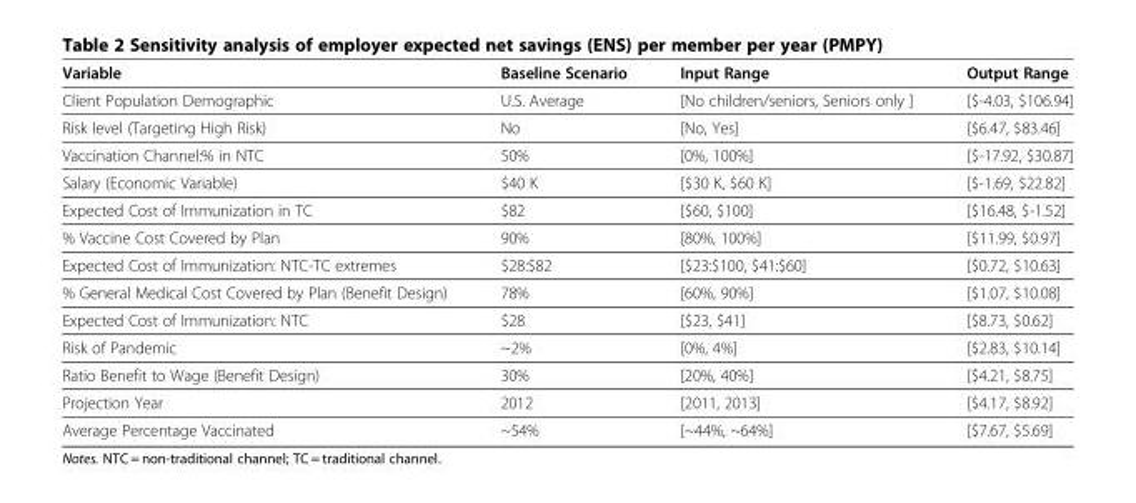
<table><thead><tr><td rowspan="3">Variable Client Population Demographic Risk level (Targeting High Risk)</td><td rowspan="3">Baseline Scenario U.S. Average No</td><td rowspan="3">Input Range [No children/seniors, Seniors only ] [No, Yes]</td><td rowspan="3">Output Range [$-4.03, $106.94] [$6.47, $83.46]</td></tr><tr></tr><tr></tr></thead><tbody><tr><td>Vaccination Channel:% in NTC</td><td>50%</td><td>[0%, 100%]</td><td>[$-17.92, $30.87]</td></tr><tr><td>Salary (Economic Variable)</td><td>$40 K</td><td>[$30 K, $60 K]</td><td>[$-1.69, $22.82]</td></tr><tr><td>Expected Cost of Immunization in TC</td><td>$82</td><td>[$60, $100]</td><td>[$16.48, $-1.52]</td></tr><tr><td>% Vaccine Cost Covered by Plan</td><td>90%</td><td>[80%, 100%]</td><td>[$11.99, $0.97]</td></tr><tr><td>Expected Cost of Immunization: NTC-TC extremes</td><td>$28:$82</td><td>[$23:$100, $41:$60]</td><td>[$0.72, $10.63]</td></tr><tr><td>% General Medical Cost Covered by Plan (Benefit Design)</td><td>78%</td><td>[60%, 90%]</td><td>[$1.07, $10.08]</td></tr><tr><td>Expected Cost of Immunization: NTC</td><td>$28</td><td>[$23, $41]</td><td>[$8.73, $0.62]</td></tr><tr><td>Risk of Pandemic</td><td>~2%</td><td>[0%, 4%]</td><td>[$2.83, $10.14]</td></tr><tr><td>Ratio Benefit to Wage (Benefit Design)</td><td>30%</td><td>[20%, 40%]</td><td>[$4.21, $8.75]</td></tr><tr><td>Projection Year</td><td>2012</td><td>[2011, 2013]</td><td>[$4.17, $8.92]</td></tr><tr><td>Average Percentage Vaccinated</td><td>~54%</td><td>[~44%, ~64%]</td><td>[$7.67, $5.69]</td></tr></tbody></table>